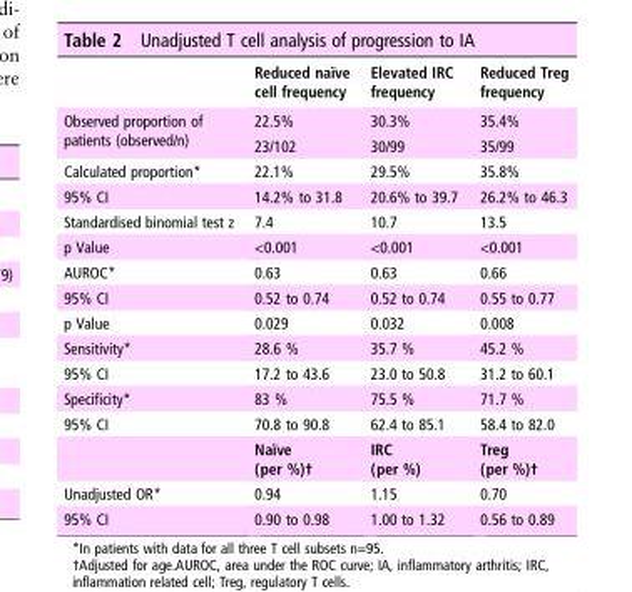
<table><thead><tr><td></td><td>Reduced naïve cell frequency</td><td>Elevated IRC frequency</td><td>Reduced Treg frequency</td></tr></thead><tbody><tr><td rowspan="2">Observed proportion of patients (observed/n)</td><td>22.5%</td><td>30.3%</td><td>35.4%</td></tr><tr><td>23/102</td><td>30/99</td><td>35/99</td></tr><tr><td>Calculated proportion*</td><td>22.1%</td><td>29.5%</td><td>35.8%</td></tr><tr><td>95% CI</td><td>14.2% to 31.8</td><td>20.6% to 39.7</td><td>26.2% to 46.3</td></tr><tr><td>Standardised binomial test z</td><td>7.4</td><td>10.7</td><td>13.5</td></tr><tr><td>p Value</td><td>&lt;0.001</td><td>&lt;0.001</td><td>&lt;0.001</td></tr><tr><td>AUROC*</td><td>0.63</td><td>0.63</td><td>0.66</td></tr><tr><td>95% CI</td><td>0.52 to 0.74</td><td>0.52 to 0.74</td><td>0.55 to 0.77</td></tr><tr><td>p Value</td><td>0.029</td><td>0.032</td><td>0.008</td></tr><tr><td>Sensitivity*</td><td>28.6 %</td><td>35.7 %</td><td>45.2 %</td></tr><tr><td>95% CI</td><td>17.2 to 43.6</td><td>23.0 to 50.8</td><td>31.2 to 60.1</td></tr><tr><td>Specificity*</td><td>83 %</td><td>75.5 %</td><td>71.7 %</td></tr><tr><td rowspan="2">95% CI</td><td>70.8 to 90.8</td><td>62.4 to 85.1</td><td>58.4 to 82.0</td></tr><tr><td>Naïve (per %)†</td><td>IRC (per %)</td><td>Treg (per %)†</td></tr><tr><td>Unadjusted OR*</td><td>0.94</td><td>1.15</td><td>0.70</td></tr><tr><td>95% CI</td><td>0.90 to 0.98</td><td>1.00 to 1.32</td><td>0.56 to 0.89</td></tr></tbody></table>